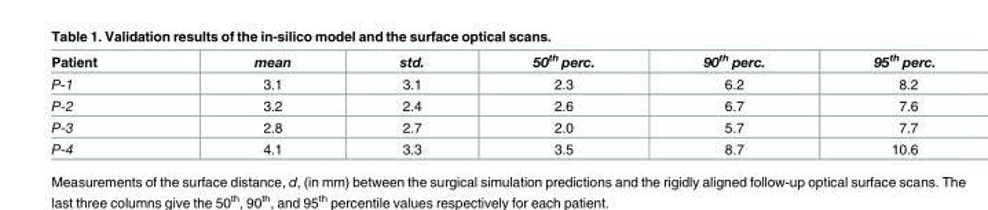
<table><thead><tr><td>Patient</td><td>mean</td><td>std.</td><td>50<sup>th</sup> perc.</td><td>90<sup>th</sup> perc.</td><td>95<sup>th</sup> perc.</td></tr></thead><tbody><tr><td>P-1</td><td>3.1</td><td>3.1</td><td>2.3</td><td>6.2</td><td>8.2</td></tr><tr><td>P-2</td><td>3.2</td><td>2.4</td><td>2.6</td><td>6.7</td><td>7.6</td></tr><tr><td>P-3</td><td>2.8</td><td>2.7</td><td>2.0</td><td>5.7</td><td>7.7</td></tr><tr><td>P-4</td><td>4.1</td><td>3.3</td><td>3.5</td><td>8.7</td><td>10.6</td></tr></tbody></table>